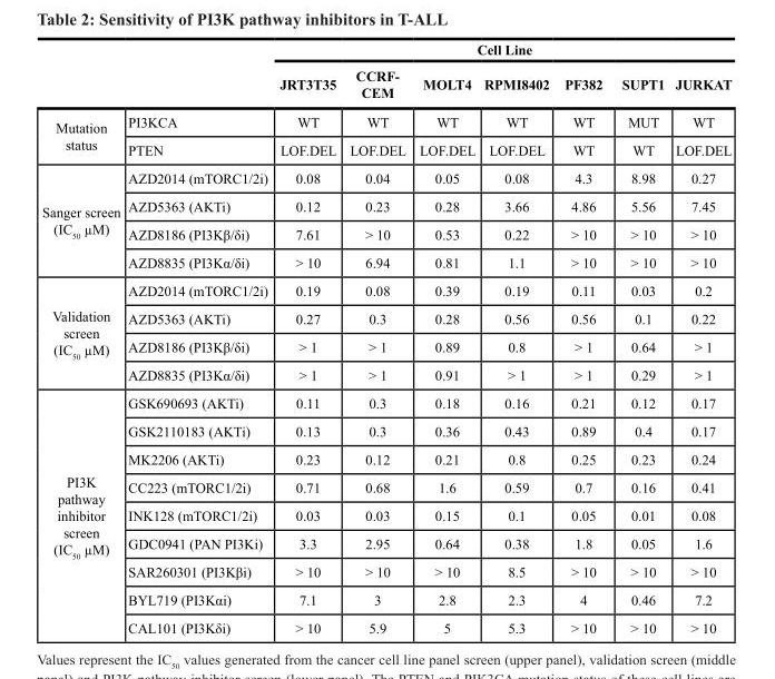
<table><thead><tr><td rowspan="2"></td><td rowspan="2"></td><td colspan="7">Cell Line</td></tr><tr><td>JRT3T35</td><td>CCRF- CEM</td><td>MOLT4</td><td>RPMI8402</td><td>PF382</td><td>SUPT1</td><td>JURKAT</td></tr></thead><tbody><tr><td rowspan="2">Mutation status</td><td>PI3KCA</td><td>WT</td><td>WT</td><td>WT</td><td>WT</td><td>WT</td><td>MUT</td><td>WT</td></tr><tr><td>PTEN</td><td>LOF.DEL</td><td>LOF.DEL</td><td>LOF.DEL</td><td>LOF.DEL</td><td>WT</td><td>WT</td><td>LOF.DEL</td></tr><tr><td rowspan="4">Sanger screen (IC<sub>50</sub> µM)</td><td>AZD2014 (mTORC1/2i)</td><td>0.08</td><td>0.04</td><td>0.05</td><td>0.08</td><td>4.3</td><td>8.98</td><td>0.27</td></tr><tr><td>AZD5363 (AKTi)</td><td>0.12</td><td>0.23</td><td>0.28</td><td>3.66</td><td>4.86</td><td>5.56</td><td>7.45</td></tr><tr><td>AZD8186 (PI3Kβ/δi)</td><td>7.61</td><td>&gt; 10</td><td>0.53</td><td>0.22</td><td>&gt; 10</td><td>&gt; 10</td><td>&gt; 10</td></tr><tr><td>AZD8835 (PI3Kα/δi)</td><td>&gt; 10</td><td>6.94</td><td>0.81</td><td>1.1</td><td>&gt; 10</td><td>&gt; 10</td><td>&gt; 10</td></tr><tr><td rowspan="4">Validation screen (IC<sub>50</sub> µM)</td><td>AZD2014 (mTORC1/2i)</td><td>0.19</td><td>0.08</td><td>0.39</td><td>0.19</td><td>0.11</td><td>0.03</td><td>0.2</td></tr><tr><td>AZD5363 (AKTi)</td><td>0.27</td><td>0.3</td><td>0.28</td><td>0.56</td><td>0.56</td><td>0.1</td><td>0.22</td></tr><tr><td>AZD8186 (PI3Kβ/δi)</td><td>&gt; 1</td><td>&gt; 1</td><td>0.89</td><td>0.8</td><td>&gt; 1</td><td>0.64</td><td>&gt; 1</td></tr><tr><td>AZD8835 (PI3Kα/δi)</td><td>&gt; 1</td><td>&gt; 1</td><td>0.91</td><td>&gt; 1</td><td>&gt; 1</td><td>0.29</td><td>&gt; 1</td></tr><tr><td rowspan="9">PI3K pathway inhibitor screen (IC<sub>50</sub> µM)</td><td>GSK690693 (AKTi)</td><td>0.11</td><td>0.3</td><td>0.18</td><td>0.16</td><td>0.21</td><td>0.12</td><td>0.17</td></tr><tr><td>GSK2110183 (AKTi)</td><td>0.13</td><td>0.3</td><td>0.36</td><td>0.43</td><td>0.89</td><td>0.4</td><td>0.17</td></tr><tr><td>MK2206 (AKTi)</td><td>0.23</td><td>0.12</td><td>0.21</td><td>0.8</td><td>0.25</td><td>0.23</td><td>0.24</td></tr><tr><td>CC223 (mTORC1/2i)</td><td>0.71</td><td>0.68</td><td>1.6</td><td>0.59</td><td>0.7</td><td>0.16</td><td>0.41</td></tr><tr><td>INK128 (mTORC1/2i)</td><td>0.03</td><td>0.03</td><td>0.15</td><td>0.1</td><td>0.05</td><td>0.01</td><td>0.08</td></tr><tr><td>GDC0941 (PAN PI3Ki)</td><td>3.3</td><td>2.95</td><td>0.64</td><td>0.38</td><td>1.8</td><td>0.05</td><td>1.6</td></tr><tr><td>SAR260301 (PI3Kβi)</td><td>&gt; 10</td><td>&gt; 10</td><td>&gt; 10</td><td>8.5</td><td>&gt; 10</td><td>&gt; 10</td><td>&gt; 10</td></tr><tr><td>BYL719 (PI3Kαi)</td><td>7.1</td><td>3</td><td>2.8</td><td>2.3</td><td>4</td><td>0.46</td><td>7.2</td></tr><tr><td>CAL101 (PI3Kδi)</td><td>&gt; 10</td><td>5.9</td><td>5</td><td>5.3</td><td>&gt; 10</td><td>&gt; 10</td><td>&gt; 10</td></tr></tbody></table>